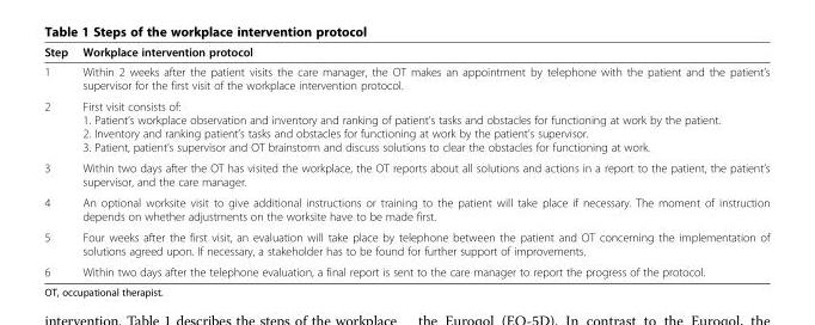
<table><thead><tr><td>Step</td><td>Workplace intervention protocol</td></tr></thead><tbody><tr><td>1</td><td>Within 2 weeks after the patient visits the care manager, the OT makes an appointment by telephone with the patient and the patient’s supervisor for the first visit of the workplace intervention protocol.</td></tr><tr><td>2</td><td>First visit consists of: 1. Patient’s workplace observation and inventory and ranking of patient’s tasks and obstacles for functioning at work by the patient. 2. Inventory and ranking patient’s tasks and obstacles for functioning at work by the patient’s supervisor. 3. Patient, patient’s supervisor and OT brainstorm and discuss solutions to clear the obstacles for functioning at work.</td></tr><tr><td>3</td><td>Within two days after the OT has visited the workplace, the OT reports about all solutions and actions in a report to the patient, the patient’s supervisor, and the care manager.</td></tr><tr><td>4</td><td>An optional worksite visit to give additional instructions or training to the patient will take place if necessary. The moment of instruction depends on whether adjustments on the worksite have to be made first.</td></tr><tr><td>5</td><td>Four weeks after the first visit, an evaluation will take place by telephone between the patient and OT concerning the implementation of solutions agreed upon. If necessary, a stakeholder has to be found for further support of improvements.</td></tr><tr><td>6</td><td>Within two days after the telephone evaluation, a final report is sent to the care manager to report the progress of the protocol.</td></tr></tbody></table>